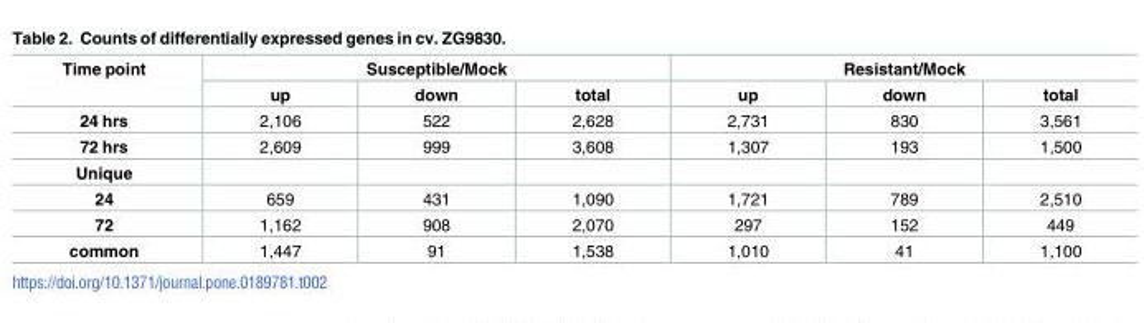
<table><thead><tr><td rowspan="2">Time point</td><td colspan="3">Susceptible/Mock</td><td colspan="3">Resistant/Mock</td></tr><tr><td>up</td><td>down</td><td>total</td><td>up</td><td>down</td><td>total</td></tr></thead><tbody><tr><td>24 hrs</td><td>2,106</td><td>522</td><td>2,628</td><td>2,731</td><td>830</td><td>3,561</td></tr><tr><td>72 hrs</td><td>2,609</td><td>999</td><td>3,608</td><td>1,307</td><td>193</td><td>1,500</td></tr><tr><td colspan="7">Unique</td></tr><tr><td>24</td><td>659</td><td>431</td><td>1,090</td><td>1,721</td><td>789</td><td>2,510</td></tr><tr><td>72</td><td>1,162</td><td>908</td><td>2,070</td><td>297</td><td>152</td><td>449</td></tr><tr><td>common</td><td>1,447</td><td>91</td><td>1,538</td><td>1,010</td><td>41</td><td>1,100</td></tr></tbody></table>